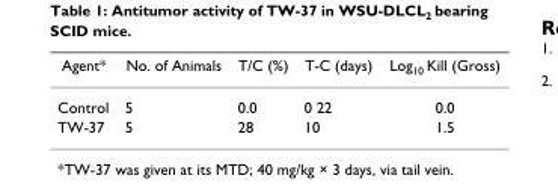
<table><thead><tr><td>Agent*</td><td>No. of Animals</td><td>T/C (%)</td><td>T-C (days)</td><td>Log<sub>10</sub> Kill (Gross)</td></tr></thead><tbody><tr><td>Control</td><td>5</td><td>0.0</td><td>0 22</td><td>0.0</td></tr><tr><td>TW-37</td><td>5</td><td>28</td><td>10</td><td>1.5</td></tr></tbody></table>